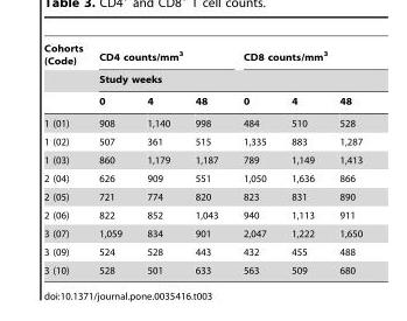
<table><thead><tr><td rowspan="3">Cohorts (Code)</td><td colspan="3">CD4 counts/mm<sup>3</sup></td><td colspan="3">CD8 counts/mm<sup>3</sup></td></tr><tr><td colspan="6">Study weeks</td></tr><tr><td>0</td><td>4</td><td>48</td><td>0</td><td>4</td><td>48</td></tr></thead><tbody><tr><td>1 (01)</td><td>908</td><td>1,140</td><td>998</td><td>484</td><td>510</td><td>528</td></tr><tr><td>1 (02)</td><td>507</td><td>361</td><td>515</td><td>1,335</td><td>883</td><td>1,287</td></tr><tr><td>1 (03)</td><td>860</td><td>1,179</td><td>1,187</td><td>789</td><td>1,149</td><td>1,413</td></tr><tr><td>2 (04)</td><td>626</td><td>909</td><td>551</td><td>1,050</td><td>1,636</td><td>866</td></tr><tr><td>2 (05)</td><td>721</td><td>774</td><td>820</td><td>823</td><td>831</td><td>890</td></tr><tr><td>2 (06)</td><td>822</td><td>852</td><td>1,043</td><td>940</td><td>1,113</td><td>911</td></tr><tr><td>3 (07)</td><td>1,059</td><td>834</td><td>901</td><td>2,047</td><td>1,222</td><td>1,650</td></tr><tr><td>3 (09)</td><td>524</td><td>528</td><td>443</td><td>432</td><td>455</td><td>488</td></tr><tr><td>3 (10)</td><td>528</td><td>501</td><td>633</td><td>563</td><td>509</td><td>680</td></tr></tbody></table>